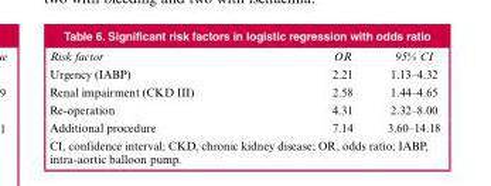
<table><thead><tr><td>Risk factor</td><td>OR</td><td>95% CI</td></tr></thead><tbody><tr><td>Urgency (IABP)</td><td>2.21</td><td>1.13–4.32</td></tr><tr><td>Renal impairment (CKD III)</td><td>2.58</td><td>1.44–4.65</td></tr><tr><td>Re-operation</td><td>4.31</td><td>2.32–8.00</td></tr><tr><td>Additional procedure</td><td>7.14</td><td>3.60–14.18</td></tr></tbody></table>